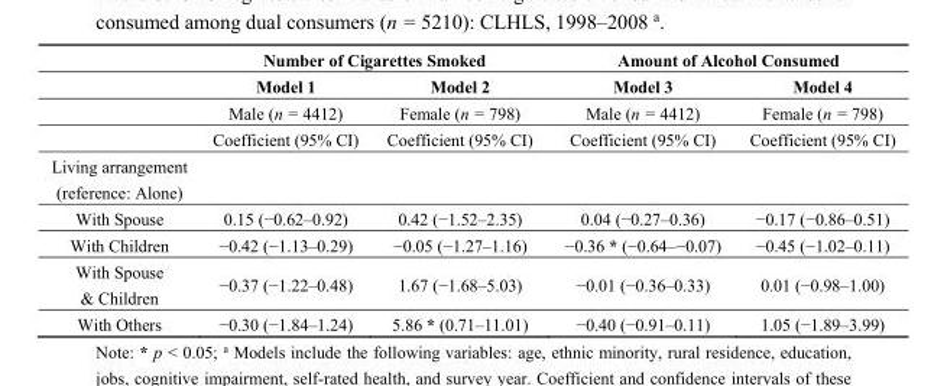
<table><thead><tr><td rowspan="2"></td><td colspan="2">Number of Cigarettes Smoked</td><td colspan="2">Amount of Alcohol Consumed</td></tr><tr><td>Model 1</td><td>Model 2</td><td>Model 3</td><td>Model 4</td></tr></thead><tbody><tr><td></td><td>Male (n = 4412)</td><td>Female (n = 798)</td><td>Male (n = 4412)</td><td>Female (n = 798)</td></tr><tr><td></td><td>Coefficient (95% CI)</td><td>Coefficient (95% CI)</td><td>Coefficient (95% CI)</td><td>Coefficient (95% CI)</td></tr><tr><td colspan="5">Living arrangement (reference: Alone)</td></tr><tr><td>With Spouse</td><td>0.15 (−0.62–0.92)</td><td>0.42 (−1.52–2.35)</td><td>0.04 (−0.27–0.36)</td><td>−0.17 (−0.86–0.51)</td></tr><tr><td>With Children</td><td>−0.42 (−1.13–0.29)</td><td>−0.05 (−1.27–1.16)</td><td>−0.36 * (−0.64–−0.07)</td><td>−0.45 (−1.02–0.11)</td></tr><tr><td>With Spouse &amp; Children</td><td>−0.37 (−1.22–0.48)</td><td>1.67 (−1.68–5.03)</td><td>−0.01 (−0.36–0.33)</td><td>0.01 (−0.98–1.00)</td></tr><tr><td>With Others</td><td>−0.30 (−1.84–1.24)</td><td>5.86 * (0.71–11.01)</td><td>−0.40 (−0.91–0.11)</td><td>1.05 (−1.89–3.99)</td></tr></tbody></table>